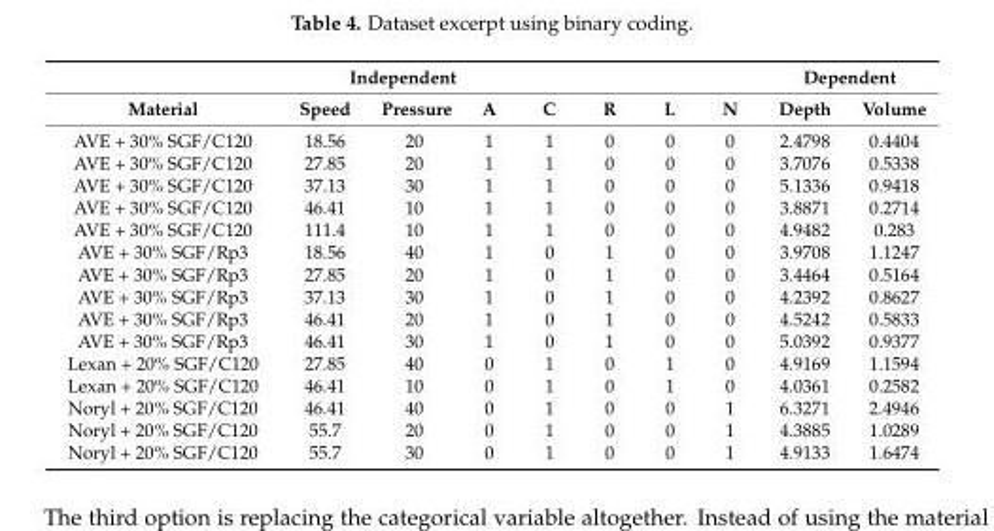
<table><thead><tr><td colspan="8">Independent</td><td colspan="2">Dependent</td></tr><tr><td>Material</td><td>Speed</td><td>Pressure</td><td>A</td><td>C</td><td>R</td><td>L</td><td>N</td><td>Depth</td><td>Volume</td></tr></thead><tbody><tr><td>AVE + 30% SGF/C120</td><td>18.56</td><td>20</td><td>1</td><td>1</td><td>0</td><td>0</td><td>0</td><td>2.4798</td><td>0.4404</td></tr><tr><td>AVE + 30% SGF/C120</td><td>27.85</td><td>20</td><td>1</td><td>1</td><td>0</td><td>0</td><td>0</td><td>3.7076</td><td>0.5338</td></tr><tr><td>AVE + 30% SGF/C120</td><td>37.13</td><td>30</td><td>1</td><td>1</td><td>0</td><td>0</td><td>0</td><td>5.1336</td><td>0.9418</td></tr><tr><td>AVE + 30% SGF/C120</td><td>46.41</td><td>10</td><td>1</td><td>1</td><td>0</td><td>0</td><td>0</td><td>3.8871</td><td>0.2714</td></tr><tr><td>AVE + 30% SGF/C120</td><td>111.4</td><td>10</td><td>1</td><td>1</td><td>0</td><td>0</td><td>0</td><td>4.9482</td><td>0.283</td></tr><tr><td>AVE + 30% SGF/Rp3</td><td>18.56</td><td>40</td><td>1</td><td>0</td><td>1</td><td>0</td><td>0</td><td>3.9708</td><td>1.1247</td></tr><tr><td>AVE + 30% SGF/Rp3</td><td>27.85</td><td>20</td><td>1</td><td>0</td><td>1</td><td>0</td><td>0</td><td>3.4464</td><td>0.5164</td></tr><tr><td>AVE + 30% SGF/Rp3</td><td>37.13</td><td>30</td><td>1</td><td>0</td><td>1</td><td>0</td><td>0</td><td>4.2392</td><td>0.8627</td></tr><tr><td>AVE + 30% SGF/Rp3</td><td>46.41</td><td>20</td><td>1</td><td>0</td><td>1</td><td>0</td><td>0</td><td>4.5242</td><td>0.5833</td></tr><tr><td>AVE + 30% SGF/Rp3</td><td>46.41</td><td>30</td><td>1</td><td>0</td><td>1</td><td>0</td><td>0</td><td>5.0392</td><td>0.9377</td></tr><tr><td>Lexan + 20% SGF/C120</td><td>27.85</td><td>40</td><td>0</td><td>1</td><td>0</td><td>1</td><td>0</td><td>4.9169</td><td>1.1594</td></tr><tr><td>Lexan + 20% SGF/C120</td><td>46.41</td><td>10</td><td>0</td><td>1</td><td>0</td><td>1</td><td>0</td><td>4.0361</td><td>0.2582</td></tr><tr><td>Noryl + 20% SGF/C120</td><td>46.41</td><td>40</td><td>0</td><td>1</td><td>0</td><td>0</td><td>1</td><td>6.3271</td><td>2.4946</td></tr><tr><td>Noryl + 20% SGF/C120</td><td>55.7</td><td>20</td><td>0</td><td>1</td><td>0</td><td>0</td><td>1</td><td>4.3885</td><td>1.0289</td></tr><tr><td>Noryl + 20% SGF/C120</td><td>55.7</td><td>30</td><td>0</td><td>1</td><td>0</td><td>0</td><td>1</td><td>4.9133</td><td>1.6474</td></tr></tbody></table>